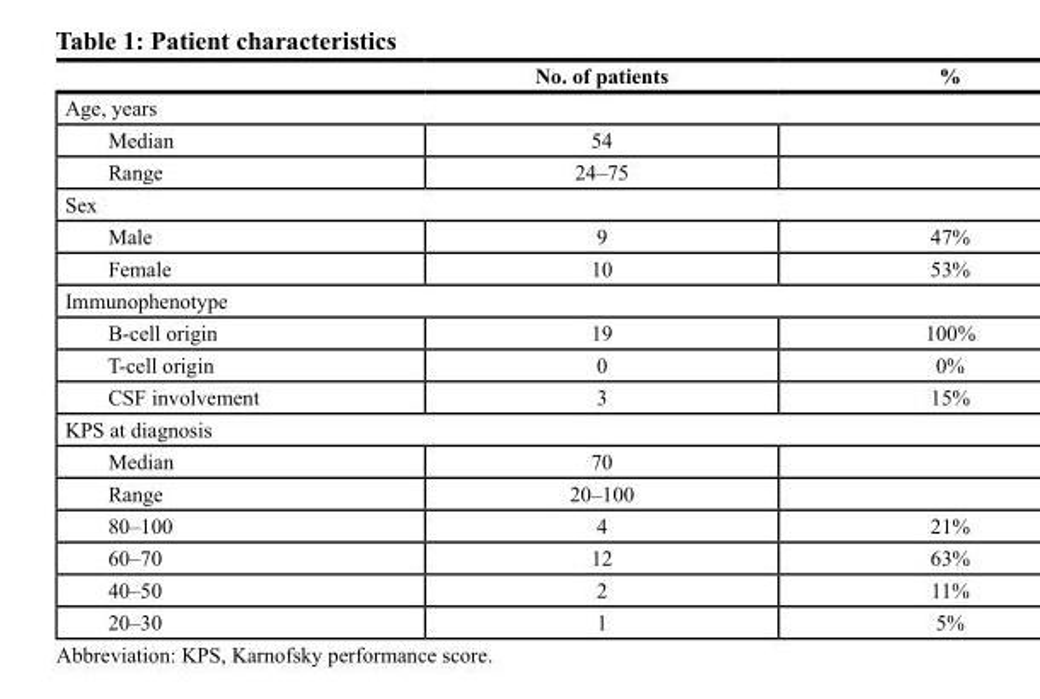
<table><thead><tr><td></td><td>No. of patients</td><td>%</td></tr></thead><tbody><tr><td colspan="3">Age, years</td></tr><tr><td>Median</td><td>54</td><td></td></tr><tr><td>Range</td><td>24–75</td><td></td></tr><tr><td colspan="3">Sex</td></tr><tr><td>Male</td><td>9</td><td>47%</td></tr><tr><td>Female</td><td>10</td><td>53%</td></tr><tr><td colspan="3">Immunophenotype</td></tr><tr><td>B-cell origin</td><td>19</td><td>100%</td></tr><tr><td>T-cell origin</td><td>0</td><td>0%</td></tr><tr><td>CSF involvement</td><td>3</td><td>15%</td></tr><tr><td colspan="3">KPS at diagnosis</td></tr><tr><td>Median</td><td>70</td><td></td></tr><tr><td>Range</td><td>20–100</td><td></td></tr><tr><td>80–100</td><td>4</td><td>21%</td></tr><tr><td>60–70</td><td>12</td><td>63%</td></tr><tr><td>40–50</td><td>2</td><td>11%</td></tr><tr><td>20–30</td><td>1</td><td>5%</td></tr></tbody></table>